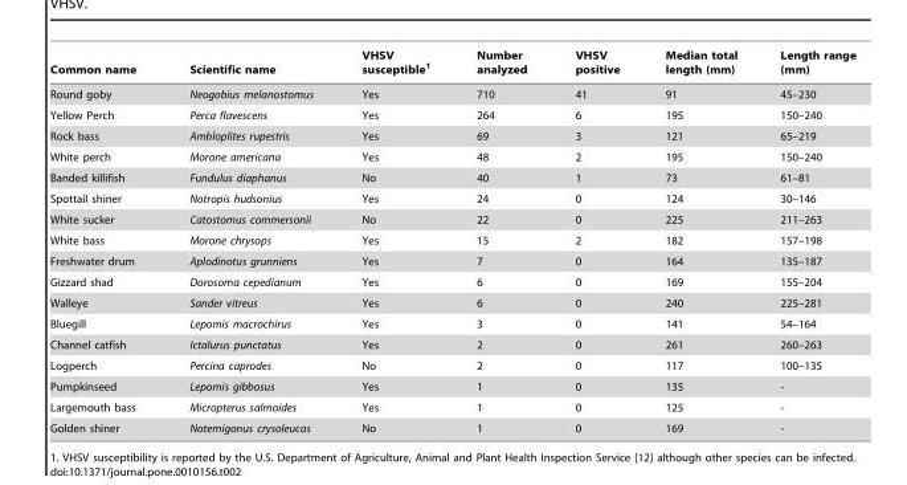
<table><thead><tr><td>Common name</td><td>Scientific name</td><td>VHSV susceptible<sup>1</sup></td><td>Number analyzed</td><td>VHSV positive</td><td>Median total length (mm)</td><td>Length range (mm)</td></tr></thead><tbody><tr><td>Round goby</td><td>Neogobius melanostomus</td><td>Yes</td><td>710</td><td>41</td><td>91</td><td>45–230</td></tr><tr><td>Yellow Perch</td><td>Perca flavescens</td><td>Yes</td><td>264</td><td>6</td><td>195</td><td>150–240</td></tr><tr><td>Rock bass</td><td>Ambloplites rupestris</td><td>Yes</td><td>69</td><td>3</td><td>121</td><td>65–219</td></tr><tr><td>White perch</td><td>Morone americana</td><td>Yes</td><td>48</td><td>2</td><td>195</td><td>150–240</td></tr><tr><td>Banded killifish</td><td>Fundulus diaphanus</td><td>No</td><td>40</td><td>1</td><td>73</td><td>61–81</td></tr><tr><td>Spottail shiner</td><td>Notropis hudsonius</td><td>Yes</td><td>24</td><td>0</td><td>124</td><td>30–146</td></tr><tr><td>White sucker</td><td>Catostomus commersonii</td><td>No</td><td>22</td><td>0</td><td>225</td><td>211–263</td></tr><tr><td>White bass</td><td>Morone chrysops</td><td>Yes</td><td>15</td><td>2</td><td>182</td><td>157–198</td></tr><tr><td>Freshwater drum</td><td>Aplodinotus grunniens</td><td>Yes</td><td>7</td><td>0</td><td>164</td><td>135–187</td></tr><tr><td>Gizzard shad</td><td>Dorosoma cepedianum</td><td>Yes</td><td>6</td><td>0</td><td>169</td><td>155–204</td></tr><tr><td>Walleye</td><td>Sander vitreus</td><td>Yes</td><td>6</td><td>0</td><td>240</td><td>225–281</td></tr><tr><td>Bluegill</td><td>Lepomis macrochirus</td><td>Yes</td><td>3</td><td>0</td><td>141</td><td>54–164</td></tr><tr><td>Channel catfish</td><td>Ictalurus punctatus</td><td>Yes</td><td>2</td><td>0</td><td>261</td><td>260–263</td></tr><tr><td>Logperch</td><td>Percina caprodes</td><td>No</td><td>2</td><td>0</td><td>117</td><td>100–135</td></tr><tr><td>Pumpkinseed</td><td>Lepomis gibbosus</td><td>Yes</td><td>1</td><td>0</td><td>135</td><td>-</td></tr><tr><td>Largemouth bass</td><td>Micropterus salmoides</td><td>Yes</td><td>1</td><td>0</td><td>125</td><td>-</td></tr><tr><td>Golden shiner</td><td>Notemigonus crysoleucas</td><td>No</td><td>1</td><td>0</td><td>169</td><td>-</td></tr></tbody></table>